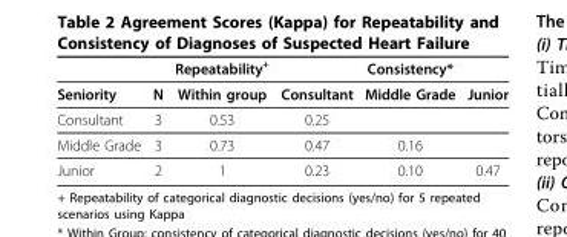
<table><thead><tr><td></td><td></td><td>Repeatability<sup>+</sup></td><td></td><td>Consistency*</td><td></td></tr></thead><tbody><tr><td>Seniority</td><td>N</td><td>Within group</td><td>Consultant</td><td>Middle Grade</td><td>Junior</td></tr><tr><td>Consultant</td><td>3</td><td>0.53</td><td>0.25</td><td></td><td></td></tr><tr><td>Middle Grade</td><td>3</td><td>0.73</td><td>0.47</td><td>0.16</td><td></td></tr><tr><td>Junior</td><td>2</td><td>1</td><td>0.23</td><td>0.10</td><td>0.47</td></tr></tbody></table>